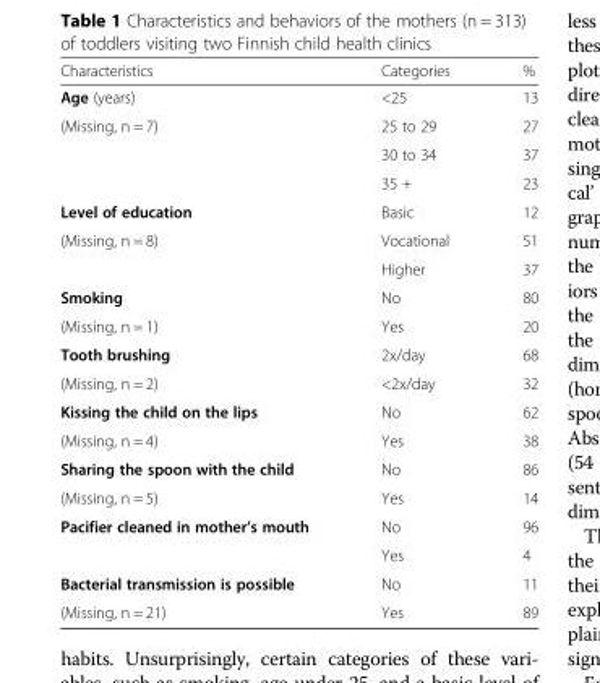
<table><thead><tr><td>Characteristics</td><td>Categories</td><td>%</td></tr></thead><tbody><tr><td>Age (years)</td><td>&lt;25</td><td>13</td></tr><tr><td rowspan="3">(Missing, n = 7)</td><td>25 to 29</td><td>27</td></tr><tr><td>30 to 34</td><td>37</td></tr><tr><td>35 +</td><td>23</td></tr><tr><td>Level of education</td><td>Basic</td><td>12</td></tr><tr><td rowspan="2">(Missing, n = 8)</td><td>Vocational</td><td>51</td></tr><tr><td>Higher</td><td>37</td></tr><tr><td>Smoking</td><td>No</td><td>80</td></tr><tr><td>(Missing, n = 1)</td><td>Yes</td><td>20</td></tr><tr><td>Tooth brushing</td><td>2x/day</td><td>68</td></tr><tr><td>(Missing, n = 2)</td><td>&lt;2x/day</td><td>32</td></tr><tr><td>Kissing the child on the lips</td><td>No</td><td>62</td></tr><tr><td>(Missing, n = 4)</td><td>Yes</td><td>38</td></tr><tr><td>Sharing the spoon with the child</td><td>No</td><td>86</td></tr><tr><td>(Missing, n = 5)</td><td>Yes</td><td>14</td></tr><tr><td rowspan="2">Pacifier cleaned in mother’s mouth</td><td>No</td><td>96</td></tr><tr><td>Yes</td><td>4</td></tr><tr><td>Bacterial transmission is possible</td><td>No</td><td>11</td></tr><tr><td>(Missing, n = 21)</td><td>Yes</td><td>89</td></tr></tbody></table>